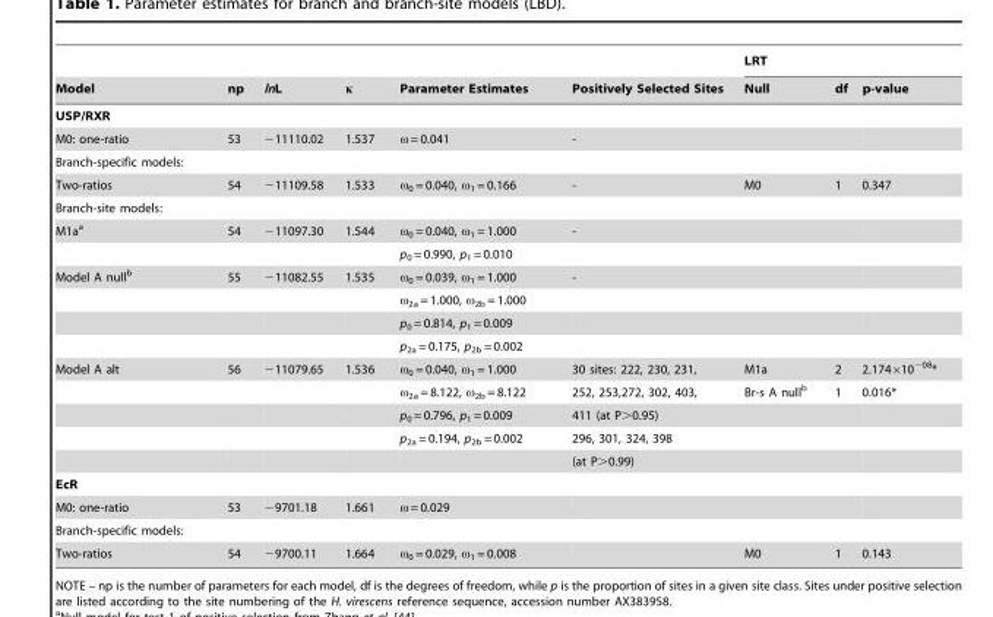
<table><thead><tr><td rowspan="2">Model</td><td rowspan="2">np</td><td rowspan="2">lnL</td><td rowspan="2">κ</td><td rowspan="2">Parameter Estimates</td><td rowspan="2">Positively Selected Sites</td><td colspan="3">LRT</td></tr><tr><td>Null</td><td>df</td><td>p-value</td></tr></thead><tbody><tr><td colspan="9">USP/RXR</td></tr><tr><td>M0: one-ratio</td><td>53</td><td>−11110.02</td><td>1.537</td><td>ω = 0.041</td><td>-</td><td></td><td></td><td></td></tr><tr><td colspan="9">Branch-specific models:</td></tr><tr><td>Two-ratios</td><td>54</td><td>−11109.58</td><td>1.533</td><td>ω<sub>0</sub> = 0.040, ω<sub>1</sub> = 0.166</td><td>-</td><td>M0</td><td>1</td><td>0.347</td></tr><tr><td colspan="9">Branch-site models:</td></tr><tr><td rowspan="2">M1a<sup>a</sup></td><td>54</td><td>−11097.30</td><td>1.544</td><td>ω<sub>0</sub> = 0.040, ω<sub>1</sub> = 1.000</td><td>-</td><td></td><td></td><td></td></tr><tr><td></td><td></td><td></td><td>p<sub>0</sub> = 0.990, p<sub>1</sub> = 0.010</td><td></td><td></td><td></td><td></td></tr><tr><td rowspan="4">Model A null<sup>b</sup></td><td>55</td><td>−11082.55</td><td>1.535</td><td>ω<sub>0</sub> = 0.039, ω<sub>1</sub> = 1.000</td><td>-</td><td></td><td></td><td></td></tr><tr><td></td><td></td><td></td><td>ω<sub>2a</sub> = 1.000, ω<sub>2b</sub> = 1.000</td><td></td><td></td><td></td><td></td></tr><tr><td></td><td></td><td></td><td>p<sub>0</sub> = 0.814, p<sub>1</sub> = 0.009</td><td></td><td></td><td></td><td></td></tr><tr><td></td><td></td><td></td><td>p<sub>2a</sub> = 0.175, p<sub>2b</sub> = 0.002</td><td></td><td></td><td></td><td></td></tr><tr><td rowspan="5">Model A alt</td><td>56</td><td>−11079.65</td><td>1.536</td><td>ω<sub>0</sub> = 0.040, ω<sub>1</sub> = 1.000</td><td>30 sites: 222, 230, 231,</td><td>M1a</td><td>2</td><td>2.174×10<sup>−08</sup>*</td></tr><tr><td></td><td></td><td></td><td>ω<sub>2a</sub> = 8.122, ω<sub>2b</sub> = 8.122</td><td>252, 253,272, 302, 403,</td><td>Br-s A null<sup>b</sup></td><td>1</td><td>0.016*</td></tr><tr><td></td><td></td><td></td><td>p<sub>0</sub> = 0.796, p<sub>1</sub> = 0.009</td><td>411 (at P&gt;0.95)</td><td></td><td></td><td></td></tr><tr><td></td><td></td><td></td><td>p<sub>2a</sub> = 0.194, p<sub>2b</sub> = 0.002</td><td>296, 301, 324, 398</td><td></td><td></td><td></td></tr><tr><td></td><td></td><td></td><td></td><td>(at P&gt;0.99)</td><td></td><td></td><td></td></tr><tr><td colspan="9">EcR</td></tr><tr><td>M0: one-ratio</td><td>53</td><td>−9701.18</td><td>1.661</td><td>ω = 0.029</td><td></td><td></td><td></td><td></td></tr><tr><td colspan="9">Branch-specific models:</td></tr><tr><td>Two-ratios</td><td>54</td><td>−9700.11</td><td>1.664</td><td>ω<sub>0</sub> = 0.029, ω<sub>1</sub> = 0.008</td><td></td><td>M0</td><td>1</td><td>0.143</td></tr></tbody></table>